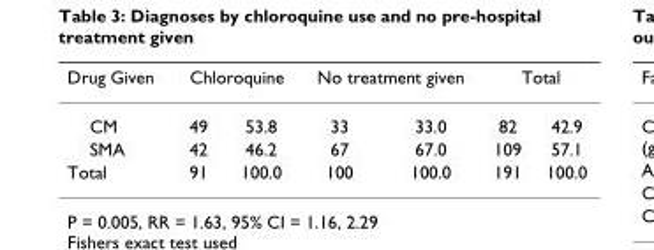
<table><thead><tr><td rowspan="2">Drug Given CM</td><td colspan="2">Chloroquine</td><td colspan="2">No treatment given</td><td colspan="2">Total</td></tr><tr><td>49</td><td>53.8</td><td>33</td><td>33.0</td><td>82</td><td>42.9</td></tr></thead><tbody><tr><td>SMA</td><td>42</td><td>46.2</td><td>67</td><td>67.0</td><td>109</td><td>57.1</td></tr><tr><td>Total</td><td>91</td><td>100.0</td><td>100</td><td>100.0</td><td>191</td><td>100.0</td></tr></tbody></table>